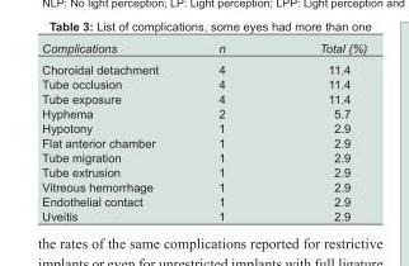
<table><tbody><tr><td>Complications</td><td>n</td><td>Total (%)</td></tr><tr><td>Choroidal detachment</td><td>4</td><td>11.4</td></tr><tr><td>Tube occlusion</td><td>4</td><td>11.4</td></tr><tr><td>Tube exposure</td><td>4</td><td>11.4</td></tr><tr><td>Hyphema</td><td>2</td><td>5.7</td></tr><tr><td>Hypotony</td><td>1</td><td>2.9</td></tr><tr><td>Flat anterior chamber</td><td>1</td><td>2.9</td></tr><tr><td>Tube migration</td><td>1</td><td>2.9</td></tr><tr><td>Tube extrusion</td><td>1</td><td>2.9</td></tr><tr><td>Vitreous hemorrhage</td><td>1</td><td>2.9</td></tr><tr><td>Endothelial contact</td><td>1</td><td>2.9</td></tr><tr><td>Uveitis</td><td>1</td><td>2.9</td></tr></tbody></table>